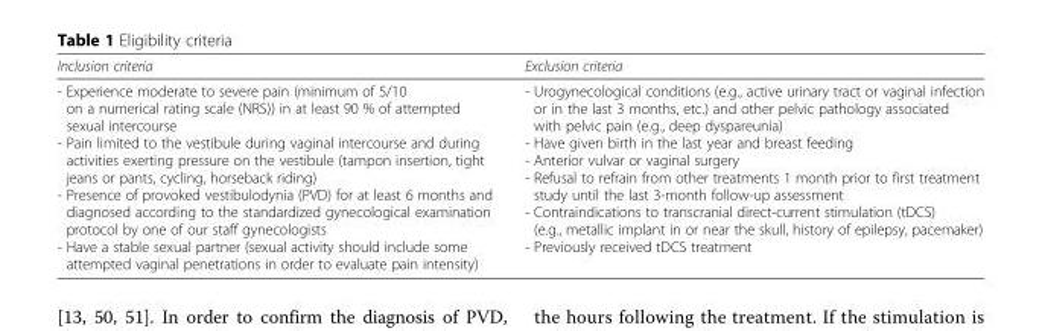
<table><thead><tr><td>Inclusion criteria</td><td>Exclusion criteria</td></tr></thead><tbody><tr><td>- Experience moderate to severe pain (minimum of 5/10 on a numerical rating scale (NRS)) in at least 90 % of attempted sexual intercourse - Pain limited to the vestibule during vaginal intercourse and during activities exerting pressure on the vestibule (tampon insertion, tight jeans or pants, cycling, horseback riding) - Presence of provoked vestibulodynia (PVD) for at least 6 months and diagnosed according to the standardized gynecological examination protocol by one of our staff gynecologists - Have a stable sexual partner (sexual activity should include some attempted vaginal penetrations in order to evaluate pain intensity)</td><td>- Urogynecological conditions (e.g., active urinary tract or vaginal infection or in the last 3 months, etc.) and other pelvic pathology associated with pelvic pain (e.g., deep dyspareunia) - Have given birth in the last year and breast feeding - Anterior vulvar or vaginal surgery - Refusal to refrain from other treatments 1 month prior to first treatment study until the last 3-month follow-up assessment - Contraindications to transcranial direct-current stimulation (tDCS) (e.g., metallic implant in or near the skull, history of epilepsy, pacemaker) - Previously received tDCS treatment</td></tr></tbody></table>